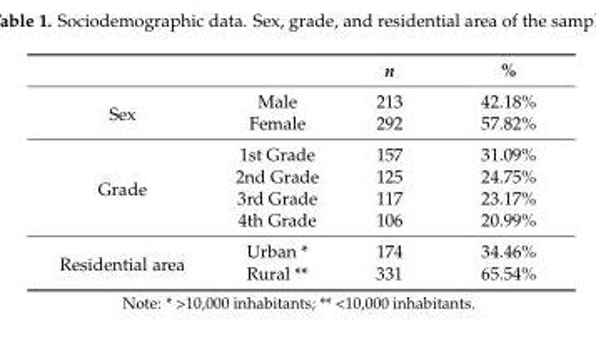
<table><thead><tr><td></td><td></td><td>n</td><td>%</td></tr></thead><tbody><tr><td rowspan="2">Sex</td><td>Male</td><td>213</td><td>42.18%</td></tr><tr><td>Female</td><td>292</td><td>57.82%</td></tr><tr><td rowspan="4">Grade</td><td>1st Grade</td><td>157</td><td>31.09%</td></tr><tr><td>2nd Grade</td><td>125</td><td>24.75%</td></tr><tr><td>3rd Grade</td><td>117</td><td>23.17%</td></tr><tr><td>4th Grade</td><td>106</td><td>20.99%</td></tr><tr><td rowspan="2">Residential area</td><td>Urban *</td><td>174</td><td>34.46%</td></tr><tr><td>Rural **</td><td>331</td><td>65.54%</td></tr></tbody></table>